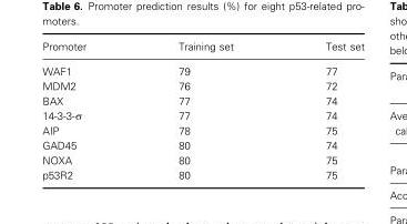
<table><thead><tr><td>Promoter</td><td>Training set</td><td>Test set</td></tr></thead><tbody><tr><td>WAF1</td><td>79</td><td>77</td></tr><tr><td>MDM2</td><td>76</td><td>72</td></tr><tr><td>BAX</td><td>77</td><td>74</td></tr><tr><td>14-3-3-σ</td><td>77</td><td>74</td></tr><tr><td>AIP</td><td>78</td><td>75</td></tr><tr><td>GAD45</td><td>80</td><td>74</td></tr><tr><td>NOXA</td><td>80</td><td>75</td></tr><tr><td>p53R2</td><td>80</td><td>75</td></tr></tbody></table>